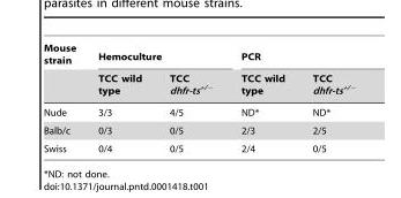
<table><thead><tr><td rowspan="2">Mouse strain</td><td colspan="2">Hemoculture</td><td colspan="2">PCR</td></tr><tr><td>TCC wild type</td><td>TCC dhfr-ts<sup>+/−</sup></td><td>TCC wild type</td><td>TCC dhfr-ts<sup>+/−</sup></td></tr></thead><tbody><tr><td>Nude</td><td>3/3</td><td>4/5</td><td>ND*</td><td>ND*</td></tr><tr><td>Balb/c</td><td>0/3</td><td>0/5</td><td>2/3</td><td>2/5</td></tr><tr><td>Swiss</td><td>0/4</td><td>0/5</td><td>2/4</td><td>0/5</td></tr></tbody></table>